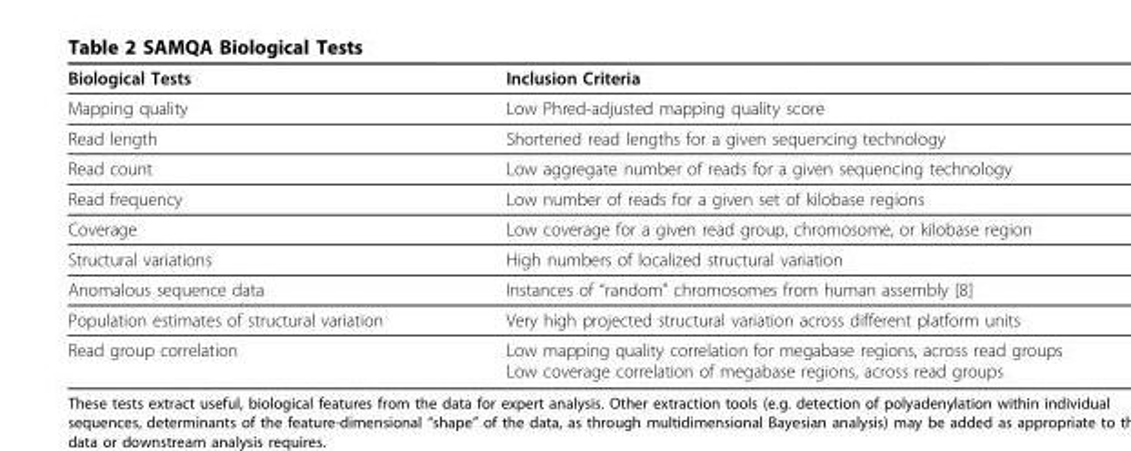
<table><thead><tr><td>Biological Tests</td><td>Inclusion Criteria</td></tr></thead><tbody><tr><td>Mapping quality</td><td>Low Phred-adjusted mapping quality score</td></tr><tr><td>Read length</td><td>Shortened read lengths for a given sequencing technology</td></tr><tr><td>Read count</td><td>Low aggregate number of reads for a given sequencing technology</td></tr><tr><td>Read frequency</td><td>Low number of reads for a given set of kilobase regions</td></tr><tr><td>Coverage</td><td>Low coverage for a given read group, chromosome, or kilobase region</td></tr><tr><td>Structural variations</td><td>High numbers of localized structural variation</td></tr><tr><td>Anomalous sequence data</td><td>Instances of “random” chromosomes from human assembly [8]</td></tr><tr><td>Population estimates of structural variation</td><td>Very high projected structural variation across different platform units</td></tr><tr><td>Read group correlation</td><td>Low mapping quality correlation for megabase regions, across read groups Low coverage correlation of megabase regions, across read groups</td></tr></tbody></table>